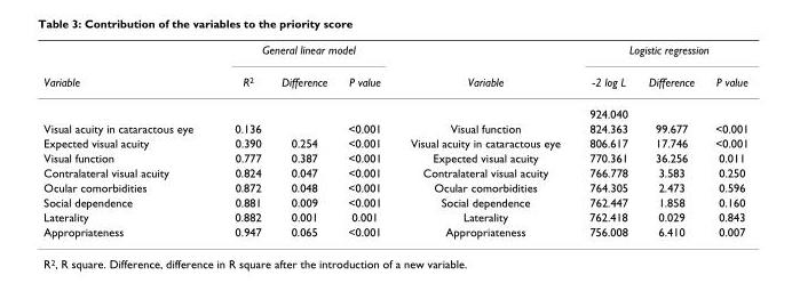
<table><thead><tr><td rowspan="2">Variable</td><td colspan="3">General linear model</td><td rowspan="2">Variable</td><td colspan="3">Logistic regression</td></tr><tr><td>R2</td><td>Difference</td><td>P value</td><td>-2 log L</td><td>Difference</td><td>P value</td></tr></thead><tbody><tr><td></td><td></td><td></td><td></td><td></td><td>924.040</td><td></td><td></td></tr><tr><td>Visual acuity in cataractous eye</td><td>0.136</td><td></td><td>&lt;0.001</td><td>Visual function</td><td>824.363</td><td>99.677</td><td>&lt;0.001</td></tr><tr><td>Expected visual acuity</td><td>0.390</td><td>0.254</td><td>&lt;0.001</td><td>Visual acuity in cataractous eye</td><td>806.617</td><td>17.746</td><td>&lt;0.001</td></tr><tr><td>Visual function</td><td>0.777</td><td>0.387</td><td>&lt;0.001</td><td>Expected visual acuity</td><td>770.361</td><td>36.256</td><td>0.011</td></tr><tr><td>Contralateral visual acuity</td><td>0.824</td><td>0.047</td><td>&lt;0.001</td><td>Contralateral visual acuity</td><td>766.778</td><td>3.583</td><td>0.250</td></tr><tr><td>Ocular comorbidities</td><td>0.872</td><td>0.048</td><td>&lt;0.001</td><td>Ocular comorbidities</td><td>764.305</td><td>2.473</td><td>0.596</td></tr><tr><td>Social dependence</td><td>0.881</td><td>0.009</td><td>&lt;0.001</td><td>Social dependence</td><td>762.447</td><td>1.858</td><td>0.160</td></tr><tr><td>Laterality</td><td>0.882</td><td>0.001</td><td>0.001</td><td>Laterality</td><td>762.418</td><td>0.029</td><td>0.843</td></tr><tr><td>Appropriateness</td><td>0.947</td><td>0.065</td><td>&lt;0.001</td><td>Appropriateness</td><td>756.008</td><td>6.410</td><td>0.007</td></tr></tbody></table>